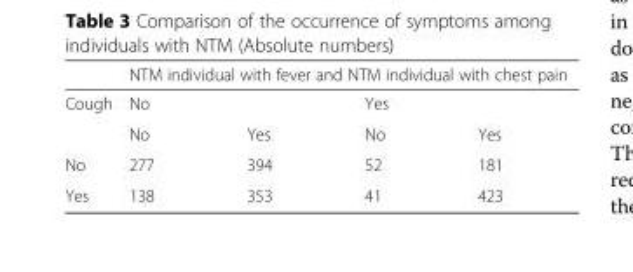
<table><thead><tr><td rowspan="3">Cough</td><td colspan="4">NTM individual with fever and NTM individual with chest pain</td></tr><tr><td colspan="2">No</td><td colspan="2">Yes</td></tr><tr><td>No</td><td>Yes</td><td>No</td><td>Yes</td></tr></thead><tbody><tr><td>No</td><td>277</td><td>394</td><td>52</td><td>181</td></tr><tr><td>Yes</td><td>138</td><td>353</td><td>41</td><td>423</td></tr></tbody></table>